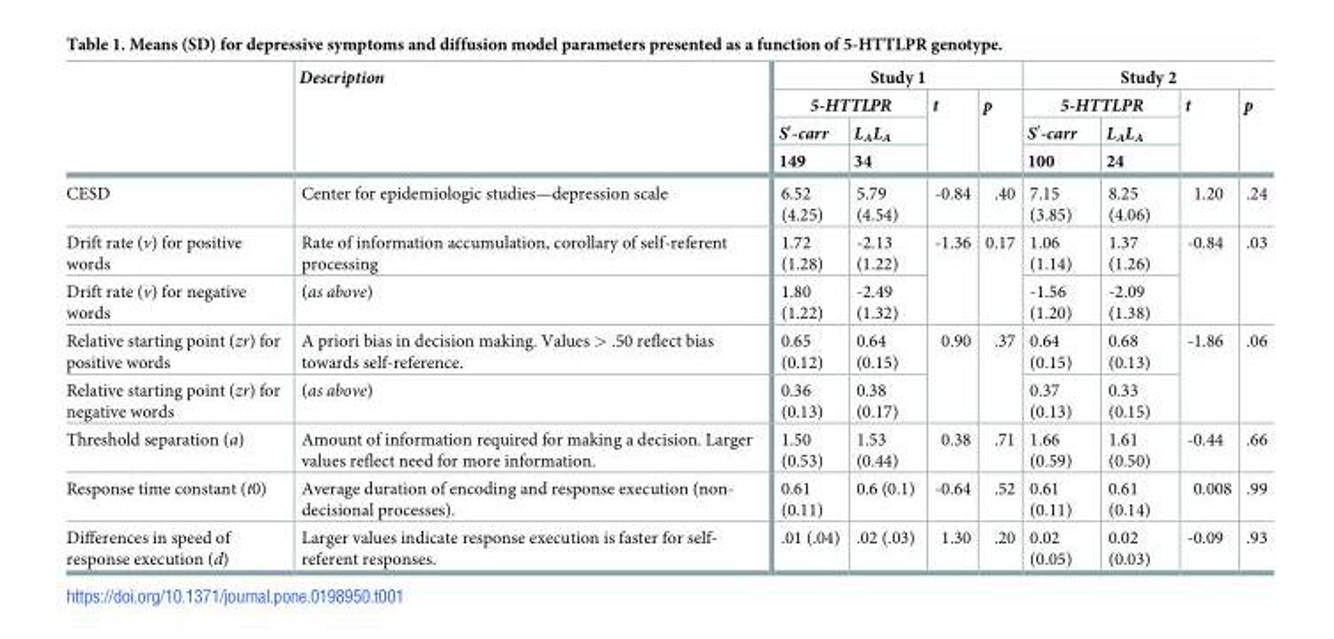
<table><thead><tr><td rowspan="4"></td><td rowspan="4">Description</td><td colspan="4">Study 1</td><td colspan="4">Study 2</td></tr><tr><td colspan="2">5-HTTLPR</td><td rowspan="3">t</td><td rowspan="3">p</td><td colspan="2">5-HTTLPR</td><td rowspan="3">t</td><td rowspan="3">p</td></tr><tr><td rowspan="2">S′-carr 149</td><td rowspan="2">L<sub>A</sub>L<sub>A</sub> 34</td><td rowspan="2">S′-carr 100</td><td rowspan="2">L<sub>A</sub>L<sub>A</sub> 24</td></tr><tr></tr></thead><tbody><tr><td>CESD</td><td>Center for epidemiologic studies—depression scale</td><td>6.52 (4.25)</td><td>5.79 (4.54)</td><td>-0.84</td><td>.40</td><td>7.15 (3.85)</td><td>8.25 (4.06)</td><td>1.20</td><td>.24</td></tr><tr><td>Drift rate (v) for positive words</td><td>Rate of information accumulation, corollary of self-referent processing</td><td>1.72 (1.28)</td><td>-2.13 (1.22)</td><td rowspan="2">-1.36</td><td rowspan="2">0.17</td><td>1.06 (1.14)</td><td>1.37 (1.26)</td><td rowspan="2">-0.84</td><td rowspan="2">.03</td></tr><tr><td>Drift rate (v) for negative words</td><td>(as above)</td><td>1.80 (1.22)</td><td>-2.49 (1.32)</td><td>-1.56 (1.20)</td><td>-2.09 (1.38)</td></tr><tr><td>Relative starting point (zr) for positive words</td><td>A priori bias in decision making. Values &gt; .50 reflect bias towards self-reference.</td><td>0.65 (0.12)</td><td>0.64 (0.15)</td><td rowspan="2">0.90</td><td rowspan="2">.37</td><td>0.64 (0.15)</td><td>0.68 (0.13)</td><td rowspan="2">-1.86</td><td rowspan="2">.06</td></tr><tr><td>Relative starting point (zr) for negative words</td><td>(as above)</td><td>0.36 (0.13)</td><td>0.38 (0.17)</td><td>0.37 (0.13)</td><td>0.33 (0.15)</td></tr><tr><td>Threshold separation (a)</td><td>Amount of information required for making a decision. Larger values reflect need for more information.</td><td>1.50 (0.53)</td><td>1.53 (0.44)</td><td>0.38</td><td>.71</td><td>1.66 (0.59)</td><td>1.61 (0.50)</td><td>-0.44</td><td>.66</td></tr><tr><td>Response time constant (t0)</td><td>Average duration of encoding and response execution (non- decisional processes).</td><td>0.61 (0.11)</td><td>0.6 (0.1)</td><td>-0.64</td><td>.52</td><td>0.61 (0.11)</td><td>0.61 (0.14)</td><td>0.008</td><td>.99</td></tr><tr><td>Differences in speed of response execution (d)</td><td>Larger values indicate response execution is faster for self- referent responses.</td><td>.01 (.04)</td><td>.02 (.03)</td><td>1.30</td><td>.20</td><td>0.02 (0.05)</td><td>0.02 (0.03)</td><td>-0.09</td><td>.93</td></tr></tbody></table>